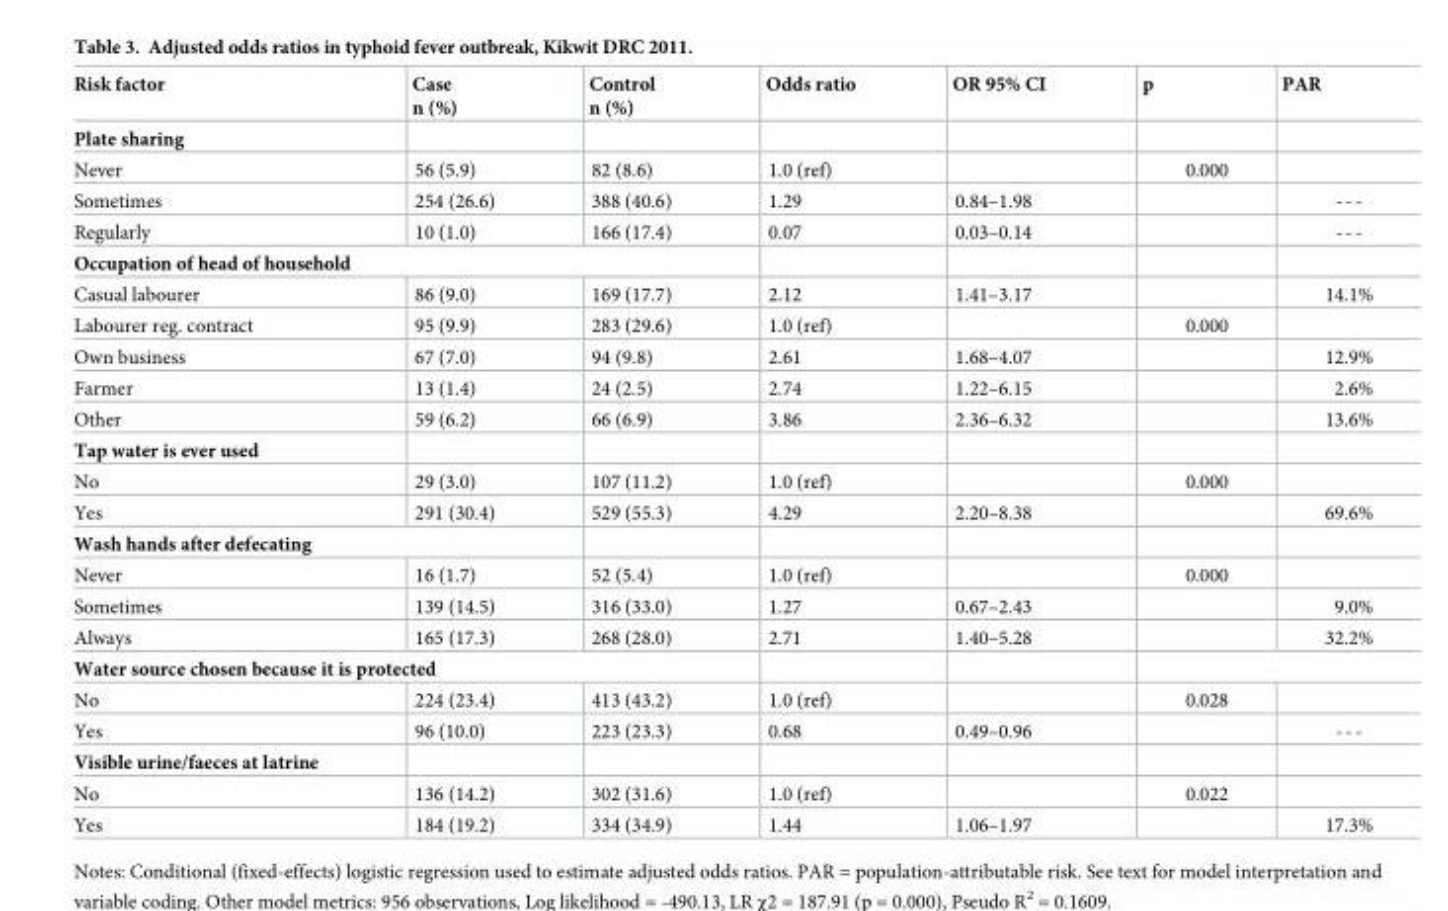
<table><thead><tr><td>Risk factor</td><td>Case n (%)</td><td>Control n (%)</td><td>Odds ratio</td><td>OR 95% CI</td><td>p</td><td>PAR</td></tr></thead><tbody><tr><td colspan="7">Plate sharing</td></tr><tr><td>Never</td><td>56 (5.9)</td><td>82 (8.6)</td><td>1.0 (ref)</td><td></td><td>0.000</td><td></td></tr><tr><td>Sometimes</td><td>254 (26.6)</td><td>388 (40.6)</td><td>1.29</td><td>0.84–1.98</td><td></td><td>---</td></tr><tr><td>Regularly</td><td>10 (1.0)</td><td>166 (17.4)</td><td>0.07</td><td>0.03–0.14</td><td></td><td>---</td></tr><tr><td colspan="7">Occupation of head of household</td></tr><tr><td>Casual labourer</td><td>86 (9.0)</td><td>169 (17.7)</td><td>2.12</td><td>1.41–3.17</td><td></td><td>14.1%</td></tr><tr><td>Labourer reg. contract</td><td>95 (9.9)</td><td>283 (29.6)</td><td>1.0 (ref)</td><td></td><td>0.000</td><td></td></tr><tr><td>Own business</td><td>67 (7.0)</td><td>94 (9.8)</td><td>2.61</td><td>1.68–4.07</td><td></td><td>12.9%</td></tr><tr><td>Farmer</td><td>13 (1.4)</td><td>24 (2.5)</td><td>2.74</td><td>1.22–6.15</td><td></td><td>2.6%</td></tr><tr><td>Other</td><td>59 (6.2)</td><td>66 (6.9)</td><td>3.86</td><td>2.36–6.32</td><td></td><td>13.6%</td></tr><tr><td colspan="7">Tap water is ever used</td></tr><tr><td>No</td><td>29 (3.0)</td><td>107 (11.2)</td><td>1.0 (ref)</td><td></td><td>0.000</td><td></td></tr><tr><td>Yes</td><td>291 (30.4)</td><td>529 (55.3)</td><td>4.29</td><td>2.20–8.38</td><td></td><td>69.6%</td></tr><tr><td colspan="7">Wash hands after defecating</td></tr><tr><td>Never</td><td>16 (1.7)</td><td>52 (5.4)</td><td>1.0 (ref)</td><td></td><td>0.000</td><td></td></tr><tr><td>Sometimes</td><td>139 (14.5)</td><td>316 (33.0)</td><td>1.27</td><td>0.67–2.43</td><td></td><td>9.0%</td></tr><tr><td>Always</td><td>165 (17.3)</td><td>268 (28.0)</td><td>2.71</td><td>1.40–5.28</td><td></td><td>32.2%</td></tr><tr><td colspan="7">Water source chosen because it is protected</td></tr><tr><td>No</td><td>224 (23.4)</td><td>413 (43.2)</td><td>1.0 (ref)</td><td></td><td>0.028</td><td></td></tr><tr><td>Yes</td><td>96 (10.0)</td><td>223 (23.3)</td><td>0.68</td><td>0.49–0.96</td><td></td><td>---</td></tr><tr><td colspan="7">Visible urine/faeces at latrine</td></tr><tr><td>No</td><td>136 (14.2)</td><td>302 (31.6)</td><td>1.0 (ref)</td><td></td><td>0.022</td><td></td></tr><tr><td>Yes</td><td>184 (19.2)</td><td>334 (34.9)</td><td>1.44</td><td>1.06–1.97</td><td></td><td>17.3%</td></tr></tbody></table>